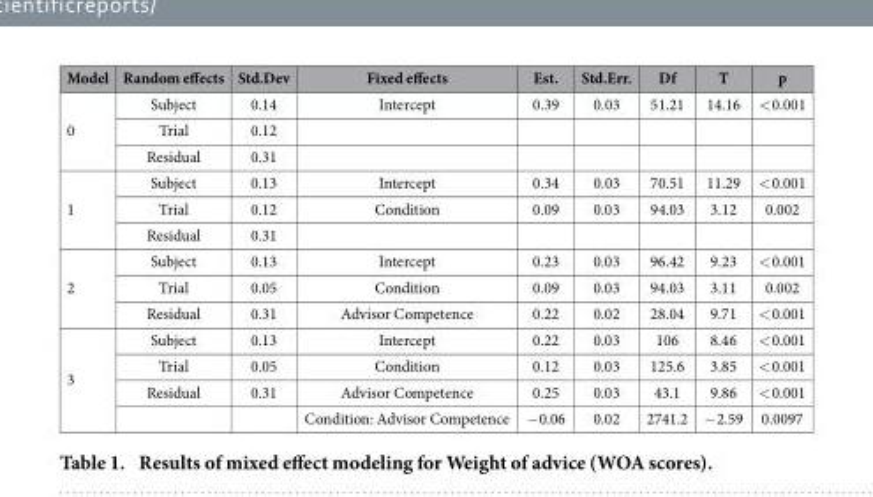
<table><thead><tr><td>Model</td><td>Random effects</td><td>Std.Dev</td><td>Fixed effects</td><td>Est.</td><td>Std.Err.</td><td>Df</td><td>T</td><td>p</td></tr></thead><tbody><tr><td rowspan="3">0</td><td>Subject</td><td>0.14</td><td>Intercept</td><td>0.39</td><td>0.03</td><td>51.21</td><td>14.16</td><td>&lt; 0.001</td></tr><tr><td>Trial</td><td>0.12</td><td></td><td></td><td></td><td></td><td></td><td></td></tr><tr><td>Residual</td><td>0.31</td><td></td><td></td><td></td><td></td><td></td><td></td></tr><tr><td rowspan="3">1</td><td>Subject</td><td>0.13</td><td>Intercept</td><td>0.34</td><td>0.03</td><td>70.51</td><td>11.29</td><td>&lt; 0.001</td></tr><tr><td>Trial</td><td>0.12</td><td>Condition</td><td>0.09</td><td>0.03</td><td>94.03</td><td>3.12</td><td>0.002</td></tr><tr><td>Residual</td><td>0.31</td><td></td><td></td><td></td><td></td><td></td><td></td></tr><tr><td rowspan="3">2</td><td>Subject</td><td>0.13</td><td>Intercept</td><td>0.23</td><td>0.03</td><td>96.42</td><td>9.23</td><td>&lt; 0.001</td></tr><tr><td>Trial</td><td>0.05</td><td>Condition</td><td>0.09</td><td>0.03</td><td>94.03</td><td>3.11</td><td>0.002</td></tr><tr><td>Residual</td><td>0.31</td><td>Advisor Competence</td><td>0.22</td><td>0.02</td><td>28.04</td><td>9.71</td><td>&lt; 0.001</td></tr><tr><td rowspan="4">3</td><td>Subject</td><td>0.13</td><td>Intercept</td><td>0.22</td><td>0.03</td><td>106</td><td>8.46</td><td>&lt; 0.001</td></tr><tr><td>Trial</td><td>0.05</td><td>Condition</td><td>0.12</td><td>0.03</td><td>125.6</td><td>3.85</td><td>&lt; 0.001</td></tr><tr><td>Residual</td><td>0.31</td><td>Advisor Competence</td><td>0.25</td><td>0.03</td><td>43.1</td><td>9.86</td><td>&lt; 0.001</td></tr><tr><td></td><td></td><td>Condition: Advisor Competence</td><td>− 0.06</td><td>0.02</td><td>2741.2</td><td>− 2.59</td><td>0.0097</td></tr></tbody></table>